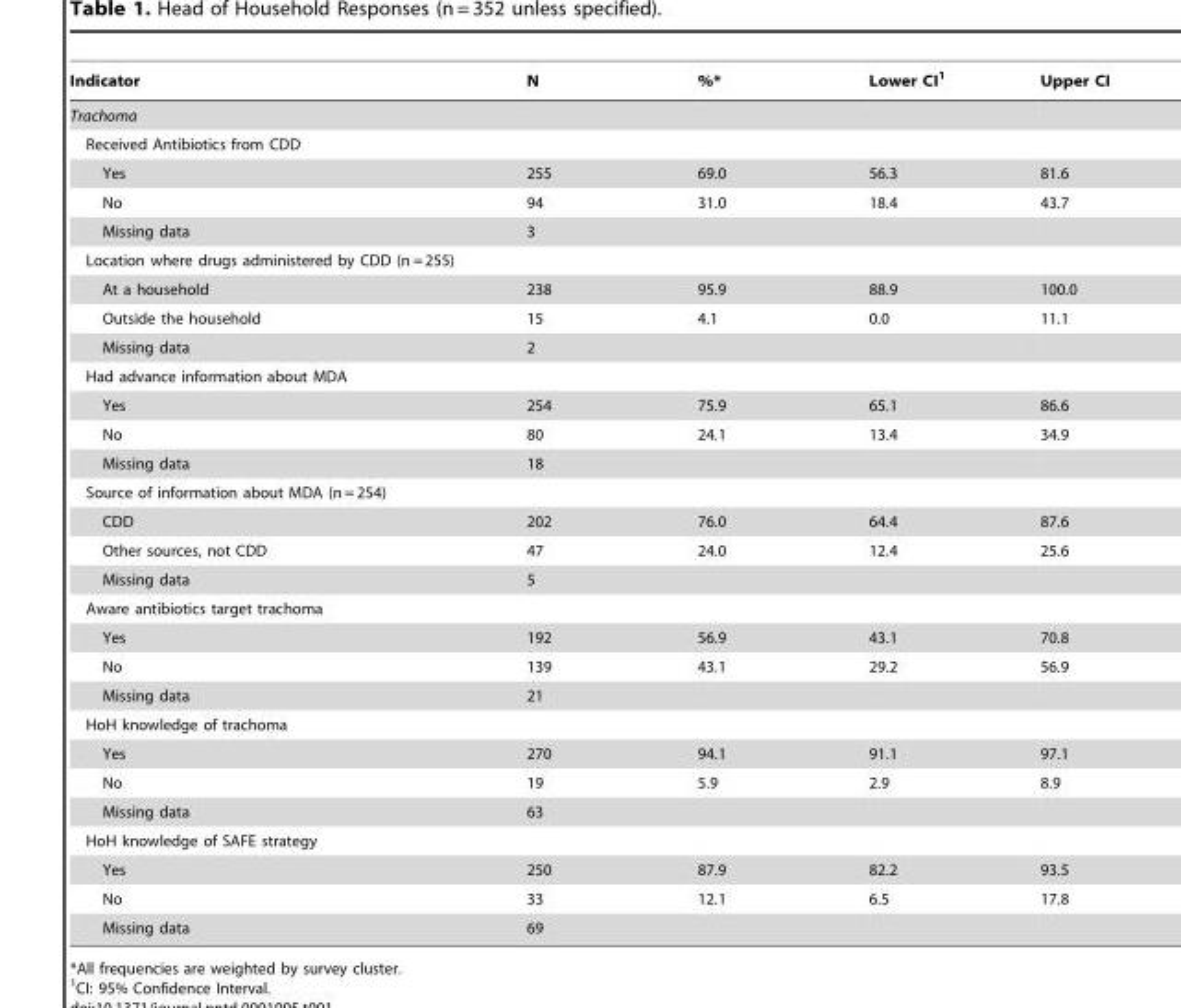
<table><thead><tr><td>Indicator</td><td>N</td><td>%*</td><td>Lower CI<sup>1</sup></td><td>Upper CI</td></tr></thead><tbody><tr><td colspan="5">Trachoma</td></tr><tr><td colspan="5">Received Antibiotics from CDD</td></tr><tr><td>Yes</td><td>255</td><td>69.0</td><td>56.3</td><td>81.6</td></tr><tr><td>No</td><td>94</td><td>31.0</td><td>18.4</td><td>43.7</td></tr><tr><td>Missing data</td><td>3</td><td></td><td></td><td></td></tr><tr><td colspan="5">Location where drugs administered by CDD (n = 255)</td></tr><tr><td>At a household</td><td>238</td><td>95.9</td><td>88.9</td><td>100.0</td></tr><tr><td>Outside the household</td><td>15</td><td>4.1</td><td>0.0</td><td>11.1</td></tr><tr><td>Missing data</td><td>2</td><td></td><td></td><td></td></tr><tr><td colspan="5">Had advance information about MDA</td></tr><tr><td>Yes</td><td>254</td><td>75.9</td><td>65.1</td><td>86.6</td></tr><tr><td>No</td><td>80</td><td>24.1</td><td>13.4</td><td>34.9</td></tr><tr><td>Missing data</td><td>18</td><td></td><td></td><td></td></tr><tr><td colspan="5">Source of information about MDA (n = 254)</td></tr><tr><td>CDD</td><td>202</td><td>76.0</td><td>64.4</td><td>87.6</td></tr><tr><td>Other sources, not CDD</td><td>47</td><td>24.0</td><td>12.4</td><td>25.6</td></tr><tr><td>Missing data</td><td>5</td><td></td><td></td><td></td></tr><tr><td colspan="5">Aware antibiotics target trachoma</td></tr><tr><td>Yes</td><td>192</td><td>56.9</td><td>43.1</td><td>70.8</td></tr><tr><td>No</td><td>139</td><td>43.1</td><td>29.2</td><td>56.9</td></tr><tr><td>Missing data</td><td>21</td><td></td><td></td><td></td></tr><tr><td colspan="5">HoH knowledge of trachoma</td></tr><tr><td>Yes</td><td>270</td><td>94.1</td><td>91.1</td><td>97.1</td></tr><tr><td>No</td><td>19</td><td>5.9</td><td>2.9</td><td>8.9</td></tr><tr><td>Missing data</td><td>63</td><td></td><td></td><td></td></tr><tr><td colspan="5">HoH knowledge of SAFE strategy</td></tr><tr><td>Yes</td><td>250</td><td>87.9</td><td>82.2</td><td>93.5</td></tr><tr><td>No</td><td>33</td><td>12.1</td><td>6.5</td><td>17.8</td></tr><tr><td>Missing data</td><td>69</td><td></td><td></td><td></td></tr></tbody></table>